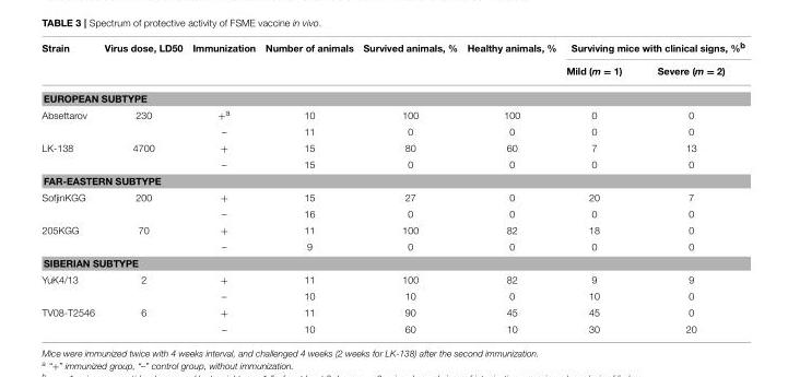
<table><thead><tr><td rowspan="2">Strain</td><td rowspan="2">Virus dose, LD50</td><td rowspan="2">Immunization</td><td rowspan="2">Number of animals</td><td rowspan="2">Survived animals, %</td><td rowspan="2">Healthy animals, %</td><td colspan="2">Surviving mice with clinical signs, %<sup>b</sup></td></tr><tr><td>Mild (m = 1)</td><td>Severe (m = 2)</td></tr></thead><tbody><tr><td colspan="8">EUROPEAN SUBTYPE</td></tr><tr><td rowspan="2">Absettarov</td><td>230</td><td>+<sup>a</sup></td><td>10</td><td>100</td><td>100</td><td>0</td><td>0</td></tr><tr><td></td><td>–</td><td>11</td><td>0</td><td>0</td><td>0</td><td>0</td></tr><tr><td rowspan="2">LK-138</td><td>4700</td><td>+</td><td>15</td><td>80</td><td>60</td><td>7</td><td>13</td></tr><tr><td></td><td>–</td><td>15</td><td>0</td><td>0</td><td>0</td><td>0</td></tr><tr><td colspan="8">FAR-EASTERN SUBTYPE</td></tr><tr><td rowspan="2">SofjinKGG</td><td>200</td><td>+</td><td>15</td><td>27</td><td>0</td><td>20</td><td>7</td></tr><tr><td></td><td>–</td><td>16</td><td>0</td><td>0</td><td>0</td><td>0</td></tr><tr><td rowspan="2">205KGG</td><td>70</td><td>+</td><td>11</td><td>100</td><td>82</td><td>18</td><td>0</td></tr><tr><td></td><td>–</td><td>9</td><td>0</td><td>0</td><td>0</td><td>0</td></tr><tr><td colspan="8">SIBERIAN SUBTYPE</td></tr><tr><td rowspan="2">YuK4/13</td><td>2</td><td>+</td><td>11</td><td>100</td><td>82</td><td>9</td><td>9</td></tr><tr><td></td><td>–</td><td>10</td><td>10</td><td>0</td><td>10</td><td>0</td></tr><tr><td rowspan="2">TV08-T2546</td><td>6</td><td>+</td><td>11</td><td>90</td><td>45</td><td>45</td><td>0</td></tr><tr><td></td><td>–</td><td>10</td><td>60</td><td>10</td><td>30</td><td>20</td></tr></tbody></table>